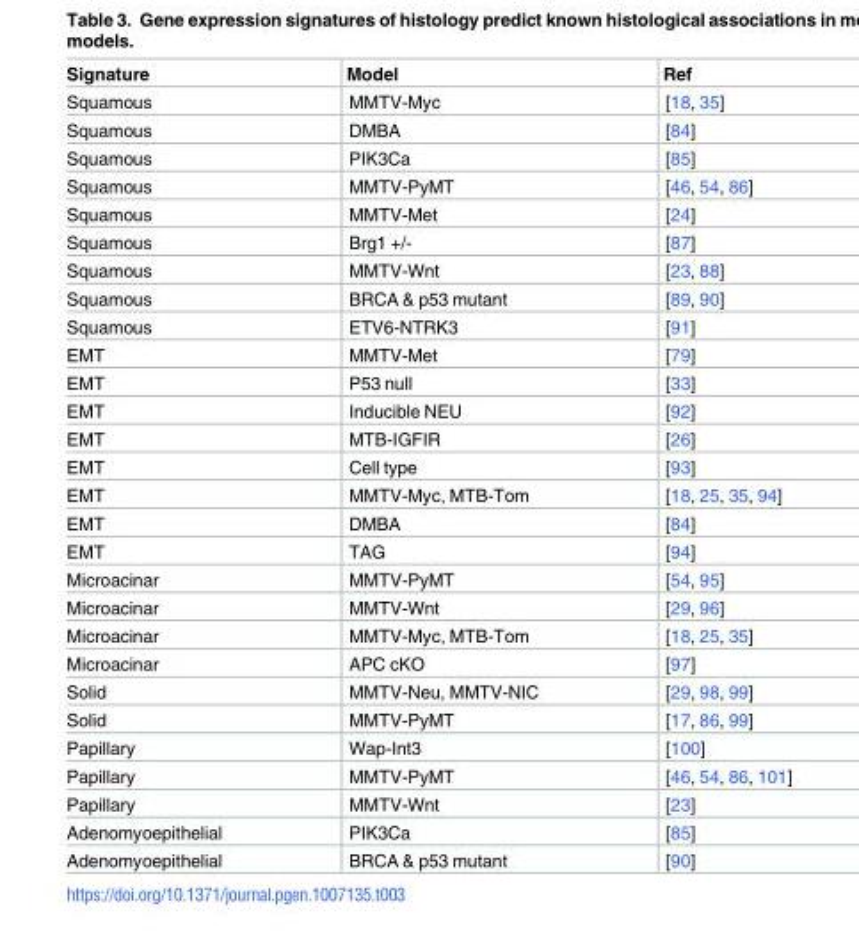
<table><thead><tr><td>Signature</td><td>Model</td><td>Ref</td></tr></thead><tbody><tr><td>Squamous</td><td>MMTV-Myc</td><td>[18, 35]</td></tr><tr><td>Squamous</td><td>DMBA</td><td>[84]</td></tr><tr><td>Squamous</td><td>PIK3Ca</td><td>[85]</td></tr><tr><td>Squamous</td><td>MMTV-PyMT</td><td>[46, 54, 86]</td></tr><tr><td>Squamous</td><td>MMTV-Met</td><td>[24]</td></tr><tr><td>Squamous</td><td>Brg1 +/-</td><td>[87]</td></tr><tr><td>Squamous</td><td>MMTV-Wnt</td><td>[23, 88]</td></tr><tr><td>Squamous</td><td>BRCA &amp; p53 mutant</td><td>[89, 90]</td></tr><tr><td>Squamous</td><td>ETV6-NTRK3</td><td>[91]</td></tr><tr><td>EMT</td><td>MMTV-Met</td><td>[79]</td></tr><tr><td>EMT</td><td>P53 null</td><td>[33]</td></tr><tr><td>EMT</td><td>Inducible NEU</td><td>[92]</td></tr><tr><td>EMT</td><td>MTB-IGFIR</td><td>[26]</td></tr><tr><td>EMT</td><td>Cell type</td><td>[93]</td></tr><tr><td>EMT</td><td>MMTV-Myc, MTB-Tom</td><td>[18, 25, 35, 94]</td></tr><tr><td>EMT</td><td>DMBA</td><td>[84]</td></tr><tr><td>EMT</td><td>TAG</td><td>[94]</td></tr><tr><td>Microacinar</td><td>MMTV-PyMT</td><td>[54, 95]</td></tr><tr><td>Microacinar</td><td>MMTV-Wnt</td><td>[29, 96]</td></tr><tr><td>Microacinar</td><td>MMTV-Myc, MTB-Tom</td><td>[18, 25, 35]</td></tr><tr><td>Microacinar</td><td>APC cKO</td><td>[97]</td></tr><tr><td>Solid</td><td>MMTV-Neu, MMTV-NIC</td><td>[29, 98, 99]</td></tr><tr><td>Solid</td><td>MMTV-PyMT</td><td>[17, 86, 99]</td></tr><tr><td>Papillary</td><td>Wap-Int3</td><td>[100]</td></tr><tr><td>Papillary</td><td>MMTV-PyMT</td><td>[46, 54, 86, 101]</td></tr><tr><td>Papillary</td><td>MMTV-Wnt</td><td>[23]</td></tr><tr><td>Adenomyoepithelial</td><td>PIK3Ca</td><td>[85]</td></tr><tr><td>Adenomyoepithelial</td><td>BRCA &amp; p53 mutant</td><td>[90]</td></tr></tbody></table>